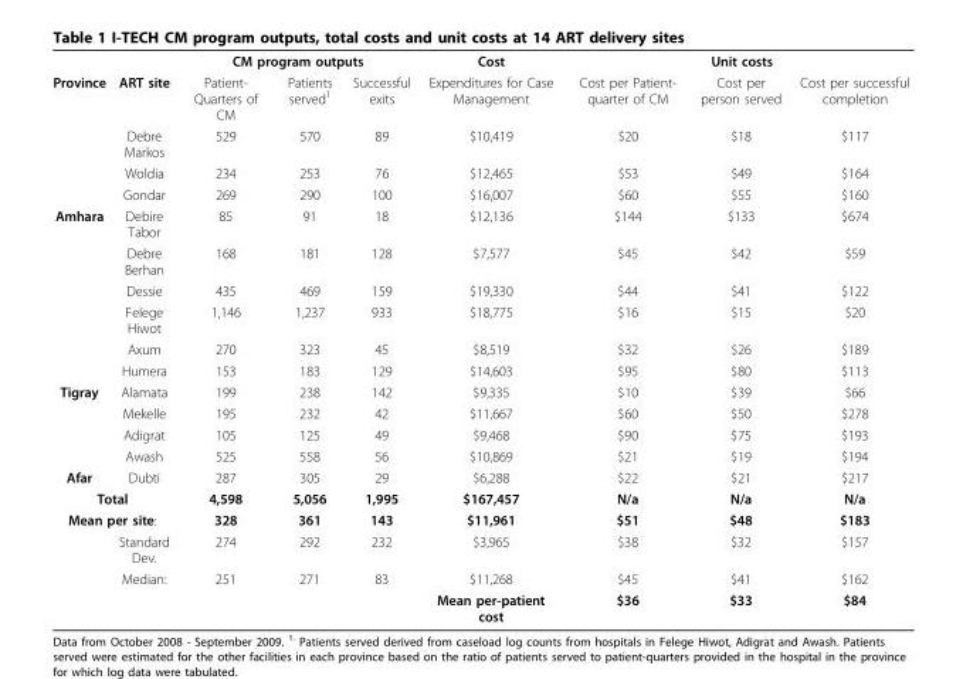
<table><thead><tr><td rowspan="2">Province</td><td rowspan="2">ART site</td><td colspan="3">CM program outputs</td><td rowspan="2">Cost Expenditures for Case Management</td><td colspan="3">Unit costs</td></tr><tr><td>Patient- Quarters of CM</td><td>Patients served<sup>1</sup></td><td>Successful exits</td><td>Cost per Patient- quarter of CM</td><td>Cost per person served</td><td>Cost per successful completion</td></tr></thead><tbody><tr><td></td><td>Debre Markos</td><td>529</td><td>570</td><td>89</td><td>$10,419</td><td>$20</td><td>$18</td><td>$117</td></tr><tr><td></td><td>Woldia</td><td>234</td><td>253</td><td>76</td><td>$12,465</td><td>$53</td><td>$49</td><td>$164</td></tr><tr><td></td><td>Gondar</td><td>269</td><td>290</td><td>100</td><td>$16,007</td><td>$60</td><td>$55</td><td>$160</td></tr><tr><td rowspan="6">Amhara</td><td>Debire Tabor</td><td>85</td><td>91</td><td>18</td><td>$12,136</td><td>$144</td><td>$133</td><td>$674</td></tr><tr><td>Debre Berhan</td><td>168</td><td>181</td><td>128</td><td>$7,577</td><td>$45</td><td>$42</td><td>$59</td></tr><tr><td>Dessie</td><td>435</td><td>469</td><td>159</td><td>$19,330</td><td>$44</td><td>$41</td><td>$122</td></tr><tr><td>Felege Hiwot</td><td>1,146</td><td>1,237</td><td>933</td><td>$18,775</td><td>$16</td><td>$15</td><td>$20</td></tr><tr><td>Axum</td><td>270</td><td>323</td><td>45</td><td>$8,519</td><td>$32</td><td>$26</td><td>$189</td></tr><tr><td>Humera</td><td>153</td><td>183</td><td>129</td><td>$14,603</td><td>$95</td><td>$80</td><td>$113</td></tr><tr><td rowspan="4">Tigray</td><td>Alamata</td><td>199</td><td>238</td><td>142</td><td>$9,335</td><td>$10</td><td>$39</td><td>$66</td></tr><tr><td>Mekelle</td><td>195</td><td>232</td><td>42</td><td>$11,667</td><td>$60</td><td>$50</td><td>$278</td></tr><tr><td>Adigrat</td><td>105</td><td>125</td><td>49</td><td>$9,468</td><td>$90</td><td>$75</td><td>$193</td></tr><tr><td>Awash</td><td>525</td><td>558</td><td>56</td><td>$10,869</td><td>$21</td><td>$19</td><td>$194</td></tr><tr><td>Afar</td><td>Dubti</td><td>287</td><td>305</td><td>29</td><td>$6,288</td><td>$22</td><td>$21</td><td>$217</td></tr><tr><td colspan="2">Total</td><td>4,598</td><td>5,056</td><td>1,995</td><td>$167,457</td><td>N/a</td><td>N/a</td><td>N/a</td></tr><tr><td colspan="2">Mean per site:</td><td>328</td><td>361</td><td>143</td><td>$11,961</td><td>$51</td><td>$48</td><td>$183</td></tr><tr><td></td><td>Standard Dev.</td><td>274</td><td>292</td><td>232</td><td>$3,965</td><td>$38</td><td>$32</td><td>$157</td></tr><tr><td></td><td>Median:</td><td>251</td><td>271</td><td>83</td><td>$11,268</td><td>$45</td><td>$41</td><td>$162</td></tr><tr><td></td><td></td><td></td><td></td><td></td><td>Mean per-patient cost</td><td>$36</td><td>$33</td><td>$84</td></tr></tbody></table>